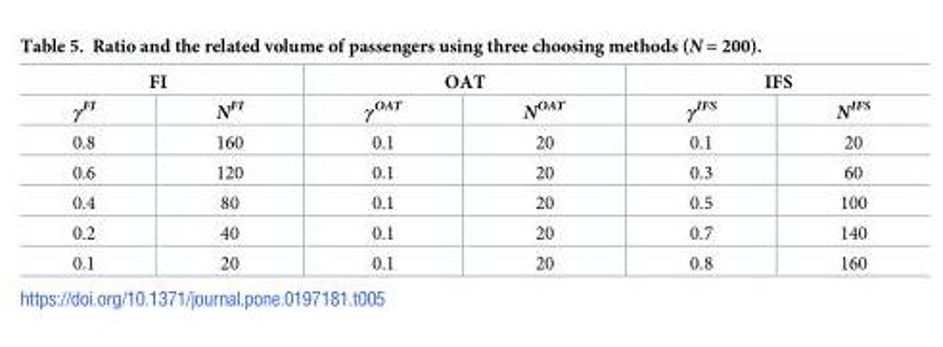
<table><thead><tr><td colspan="2">FI</td><td colspan="2">OAT</td><td colspan="2">IFS</td></tr><tr><td>γ<sup>FI</sup></td><td>N<sup>FI</sup></td><td>γ<sup>OAT</sup></td><td>N<sup>OAT</sup></td><td>γ<sup>IFS</sup></td><td>N<sup>IFS</sup></td></tr></thead><tbody><tr><td>0.8</td><td>160</td><td>0.1</td><td>20</td><td>0.1</td><td>20</td></tr><tr><td>0.6</td><td>120</td><td>0.1</td><td>20</td><td>0.3</td><td>60</td></tr><tr><td>0.4</td><td>80</td><td>0.1</td><td>20</td><td>0.5</td><td>100</td></tr><tr><td>0.2</td><td>40</td><td>0.1</td><td>20</td><td>0.7</td><td>140</td></tr><tr><td>0.1</td><td>20</td><td>0.1</td><td>20</td><td>0.8</td><td>160</td></tr></tbody></table>